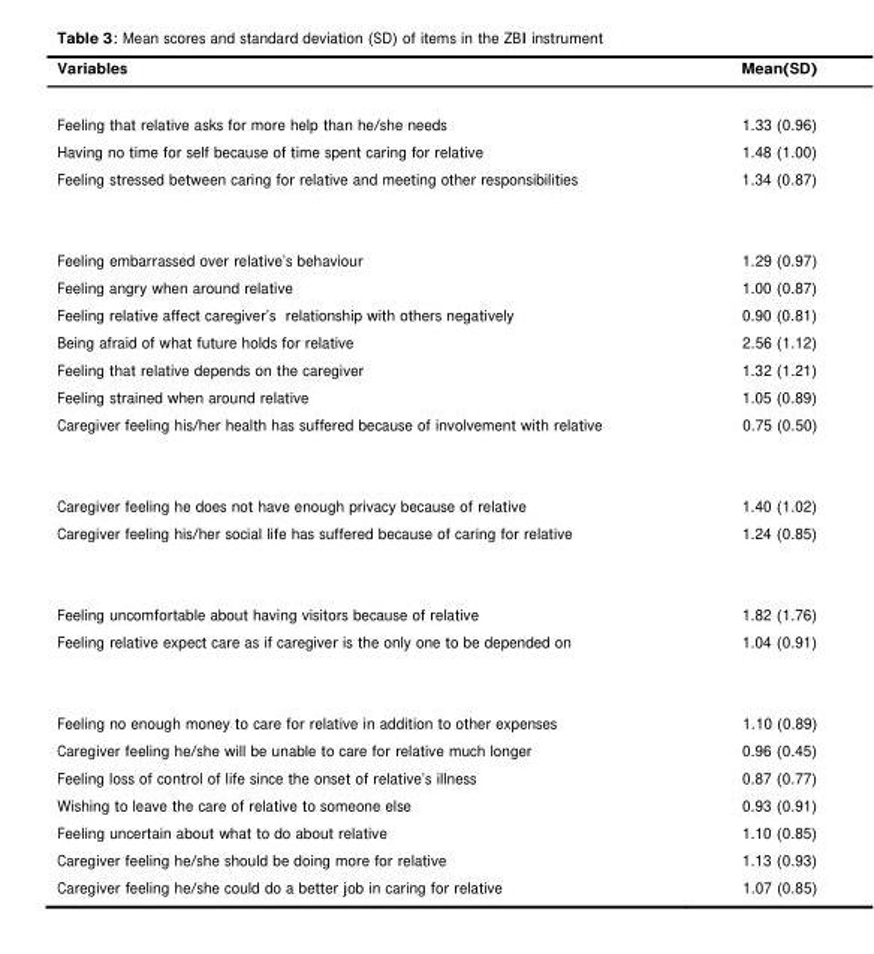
<table><thead><tr><td>Variables</td><td>Mean(SD)</td></tr></thead><tbody><tr><td>Feeling that relative asks for more help than he/she needs</td><td>1.33 (0.96)</td></tr><tr><td>Having no time for self because of time spent caring for relative</td><td>1.48 (1.00)</td></tr><tr><td>Feeling stressed between caring for relative and meeting other responsibilities</td><td>1.34 (0.87)</td></tr><tr><td>Feeling embarrassed over relative’s behaviour</td><td>1.29 (0.97)</td></tr><tr><td>Feeling angry when around relative</td><td>1.00 (0.87)</td></tr><tr><td>Feeling relative affect caregiver’s relationship with others negatively</td><td>0.90 (0.81)</td></tr><tr><td>Being afraid of what future holds for relative</td><td>2.56 (1.12)</td></tr><tr><td>Feeling that relative depends on the caregiver</td><td>1.32 (1.21)</td></tr><tr><td>Feeling strained when around relative</td><td>1.05 (0.89)</td></tr><tr><td>Caregiver feeling his/her health has suffered because of involvement with relative</td><td>0.75 (0.50)</td></tr><tr><td>Caregiver feeling he does not have enough privacy because of relative</td><td>1.40 (1.02)</td></tr><tr><td>Caregiver feeling his/her social life has suffered because of caring for relative</td><td>1.24 (0.85)</td></tr><tr><td>Feeling uncomfortable about having visitors because of relative</td><td>1.82 (1.76)</td></tr><tr><td>Feeling relative expect care as if caregiver is the only one to be depended on</td><td>1.04 (0.91)</td></tr><tr><td>Feeling no enough money to care for relative in addition to other expenses</td><td>1.10 (0.89)</td></tr><tr><td>Caregiver feeling he/she will be unable to care for relative much longer</td><td>0.96 (0.45)</td></tr><tr><td>Feeling loss of control of life since the onset of relative’s illness</td><td>0.87 (0.77)</td></tr><tr><td>Wishing to leave the care of relative to someone else</td><td>0.93 (0.91)</td></tr><tr><td>Feeling uncertain about what to do about relative</td><td>1.10 (0.85)</td></tr><tr><td>Caregiver feeling he/she should be doing more for relative</td><td>1.13 (0.93)</td></tr><tr><td>Caregiver feeling he/she could do a better job in caring for relative</td><td>1.07 (0.85)</td></tr></tbody></table>